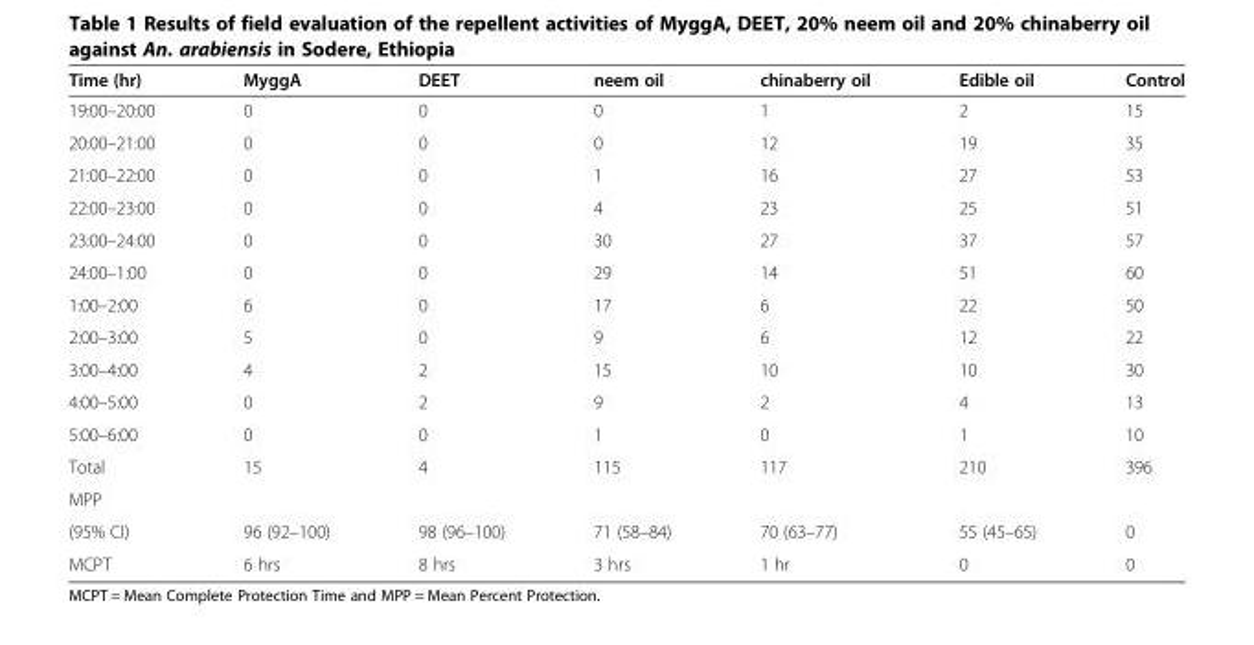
<table><thead><tr><td>Time (hr)</td><td>MyggA</td><td>DEET</td><td>neem oil</td><td>chinaberry oil</td><td>Edible oil</td><td>Control</td></tr></thead><tbody><tr><td>19:00–20:00</td><td>0</td><td>0</td><td>0</td><td>1</td><td>2</td><td>15</td></tr><tr><td>20:00–21:00</td><td>0</td><td>0</td><td>0</td><td>12</td><td>19</td><td>35</td></tr><tr><td>21:00–22:00</td><td>0</td><td>0</td><td>1</td><td>16</td><td>27</td><td>53</td></tr><tr><td>22:00–23:00</td><td>0</td><td>0</td><td>4</td><td>23</td><td>25</td><td>51</td></tr><tr><td>23:00–24:00</td><td>0</td><td>0</td><td>30</td><td>27</td><td>37</td><td>57</td></tr><tr><td>24:00–1:00</td><td>0</td><td>0</td><td>29</td><td>14</td><td>51</td><td>60</td></tr><tr><td>1:00–2:00</td><td>6</td><td>0</td><td>17</td><td>6</td><td>22</td><td>50</td></tr><tr><td>2:00–3:00</td><td>5</td><td>0</td><td>9</td><td>6</td><td>12</td><td>22</td></tr><tr><td>3:00–4:00</td><td>4</td><td>2</td><td>15</td><td>10</td><td>10</td><td>30</td></tr><tr><td>4:00–5:00</td><td>0</td><td>2</td><td>9</td><td>2</td><td>4</td><td>13</td></tr><tr><td>5:00–6:00</td><td>0</td><td>0</td><td>1</td><td>0</td><td>1</td><td>10</td></tr><tr><td>Total</td><td>15</td><td>4</td><td>115</td><td>117</td><td>210</td><td>396</td></tr><tr><td colspan="7">MPP</td></tr><tr><td>(95% CI)</td><td>96 (92–100)</td><td>98 (96–100)</td><td>71 (58–84)</td><td>70 (63–77)</td><td>55 (45–65)</td><td>0</td></tr><tr><td>MCPT</td><td>6 hrs</td><td>8 hrs</td><td>3 hrs</td><td>1 hr</td><td>0</td><td>0</td></tr></tbody></table>